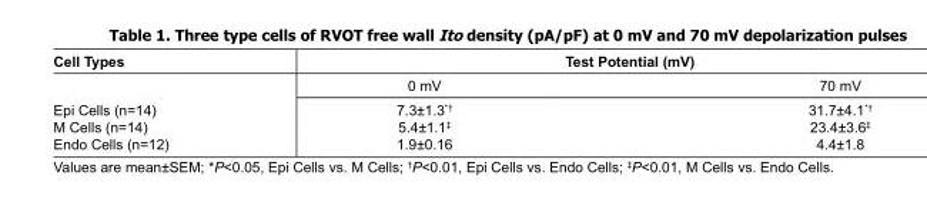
<table><thead><tr><td rowspan="2">Cell Types</td><td colspan="2">Test Potential (mV)</td></tr><tr><td>0 mV</td><td>70 mV</td></tr></thead><tbody><tr><td>Epi Cells (n=14)</td><td>7.3±1.3*†</td><td>31.7±4.1*†</td></tr><tr><td>M Cells (n=14)</td><td>5.4±1.1‡</td><td>23.4±3.6‡</td></tr><tr><td>Endo Cells (n=12)</td><td>1.9±0.16</td><td>4.4±1.8</td></tr></tbody></table>